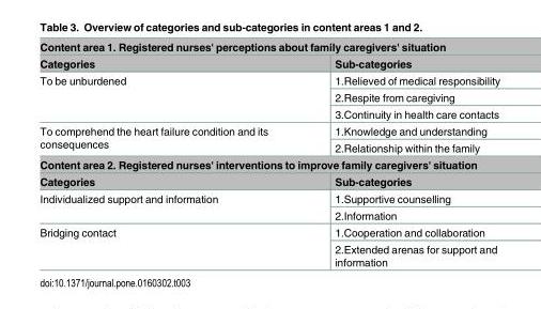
<table><tbody><tr><td colspan="2">Content area 1. Registered nurses&#x27; perceptions about family caregivers&#x27; situation</td></tr><tr><td>Categories</td><td>Sub-categories</td></tr><tr><td rowspan="3">To be unburdened</td><td>1.Relieved of medical responsibility</td></tr><tr><td>2.Respite from caregiving</td></tr><tr><td>3.Continuity in health care contacts</td></tr><tr><td rowspan="2">To comprehend the heart failure condition and its consequences</td><td>1.Knowledge and understanding</td></tr><tr><td>2.Relationship within the family</td></tr><tr><td colspan="2">Content area 2. Registered nurses&#x27; interventions to improve family caregivers&#x27; situation</td></tr><tr><td>Categories</td><td>Sub-categories</td></tr><tr><td rowspan="2">Individualized support and information</td><td>1.Supportive counselling</td></tr><tr><td>2.Information</td></tr><tr><td rowspan="2">Bridging contact</td><td>1.Cooperation and collaboration</td></tr><tr><td>2.Extended arenas for support and information</td></tr></tbody></table>